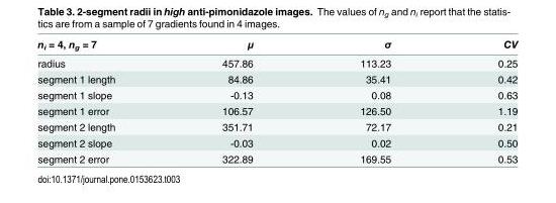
<table><thead><tr><td>n<sub>i</sub> = 4, n<sub>g</sub> = 7</td><td>μ</td><td>σ</td><td>CV</td></tr></thead><tbody><tr><td>radius</td><td>457.86</td><td>113.23</td><td>0.25</td></tr><tr><td>segment 1 length</td><td>84.86</td><td>35.41</td><td>0.42</td></tr><tr><td>segment 1 slope</td><td>-0.13</td><td>0.08</td><td>0.63</td></tr><tr><td>segment 1 error</td><td>106.57</td><td>126.50</td><td>1.19</td></tr><tr><td>segment 2 length</td><td>351.71</td><td>72.17</td><td>0.21</td></tr><tr><td>segment 2 slope</td><td>-0.03</td><td>0.02</td><td>0.50</td></tr><tr><td>segment 2 error</td><td>322.89</td><td>169.55</td><td>0.53</td></tr></tbody></table>